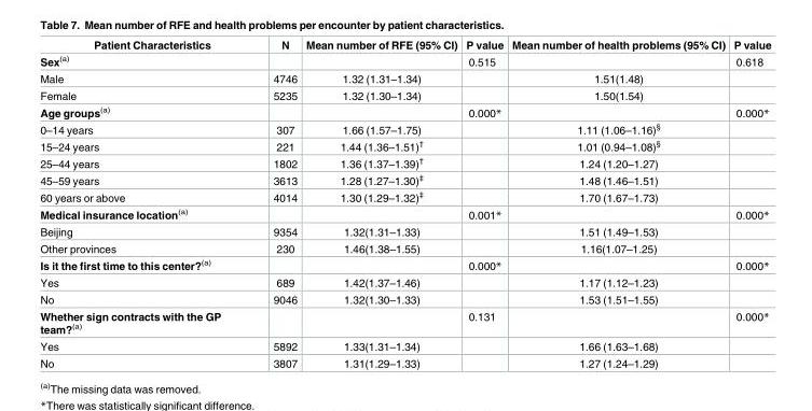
<table><thead><tr><td>Patient Characteristics</td><td>N</td><td>Mean number of RFE (95% CI)</td><td>P value</td><td>Mean number of health problems (95% CI)</td><td>P value</td></tr></thead><tbody><tr><td>Sex<sup>(a)</sup></td><td></td><td></td><td>0.515</td><td></td><td>0.618</td></tr><tr><td>Male</td><td>4746</td><td>1.32 (1.31–1.34)</td><td></td><td>1.51(1.48)</td><td></td></tr><tr><td>Female</td><td>5235</td><td>1.32 (1.30–1.34)</td><td></td><td>1.50(1.54)</td><td></td></tr><tr><td>Age groups<sup>(a)</sup></td><td></td><td></td><td>0.000*</td><td></td><td>0.000*</td></tr><tr><td>0–14 years</td><td>307</td><td>1.66 (1.57–1.75)</td><td></td><td>1.11 (1.06–1.16)<sup>§</sup></td><td></td></tr><tr><td>15–24 years</td><td>221</td><td>1.44 (1.36–1.51)<sup>†</sup></td><td></td><td>1.01 (0.94–1.08)<sup>§</sup></td><td></td></tr><tr><td>25–44 years</td><td>1802</td><td>1.36 (1.37–1.39)<sup>†</sup></td><td></td><td>1.24 (1.20–1.27)</td><td></td></tr><tr><td>45–59 years</td><td>3613</td><td>1.28 (1.27–1.30)<sup>‡</sup></td><td></td><td>1.48 (1.46–1.51)</td><td></td></tr><tr><td>60 years or above</td><td>4014</td><td>1.30 (1.29–1.32)<sup>‡</sup></td><td></td><td>1.70 (1.67–1.73)</td><td></td></tr><tr><td>Medical insurance location<sup>(a)</sup></td><td></td><td></td><td>0.001*</td><td></td><td>0.000*</td></tr><tr><td>Beijing</td><td>9354</td><td>1.32(1.31–1.33)</td><td></td><td>1.51 (1.49–1.53)</td><td></td></tr><tr><td>Other provinces</td><td>230</td><td>1.46(1.38–1.55)</td><td></td><td>1.16(1.07–1.25)</td><td></td></tr><tr><td>Is it the first time to this center?<sup>(a)</sup></td><td></td><td></td><td>0.000*</td><td></td><td>0.000*</td></tr><tr><td>Yes</td><td>689</td><td>1.42(1.37–1.46)</td><td></td><td>1.17 (1.12–1.23)</td><td></td></tr><tr><td>No</td><td>9046</td><td>1.32(1.30–1.33)</td><td></td><td>1.53 (1.51–1.55)</td><td></td></tr><tr><td>Whether sign contracts with the GP team?<sup>(a)</sup></td><td></td><td></td><td>0.131</td><td></td><td>0.000*</td></tr><tr><td>Yes</td><td>5892</td><td>1.33(1.31–1.34)</td><td></td><td>1.66 (1.63–1.68)</td><td></td></tr><tr><td>No</td><td>3807</td><td>1.31(1.29–1.33)</td><td></td><td>1.27 (1.24–1.29)</td><td></td></tr></tbody></table>